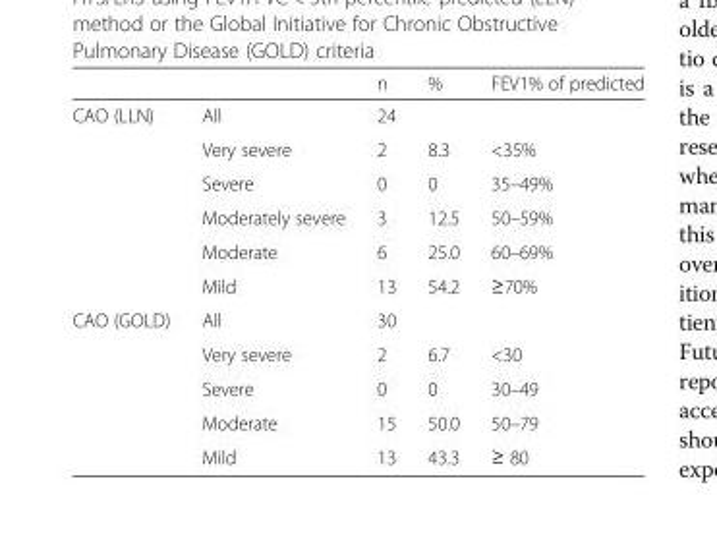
<table><thead><tr><td></td><td></td><td>n</td><td>%</td><td>FEV1% of predicted</td></tr></thead><tbody><tr><td rowspan="6">CAO (LLN)</td><td>All</td><td>24</td><td></td><td></td></tr><tr><td>Very severe</td><td>2</td><td>8.3</td><td>&lt;35%</td></tr><tr><td>Severe</td><td>0</td><td>0</td><td>35–49%</td></tr><tr><td>Moderately severe</td><td>3</td><td>12.5</td><td>50–59%</td></tr><tr><td>Moderate</td><td>6</td><td>25.0</td><td>60–69%</td></tr><tr><td>Mild</td><td>13</td><td>54.2</td><td>≥70%</td></tr><tr><td rowspan="5">CAO (GOLD)</td><td>All</td><td>30</td><td></td><td></td></tr><tr><td>Very severe</td><td>2</td><td>6.7</td><td>&lt;30</td></tr><tr><td>Severe</td><td>0</td><td>0</td><td>30–49</td></tr><tr><td>Moderate</td><td>15</td><td>50.0</td><td>50–79</td></tr><tr><td>Mild</td><td>13</td><td>43.3</td><td>≥ 80</td></tr></tbody></table>